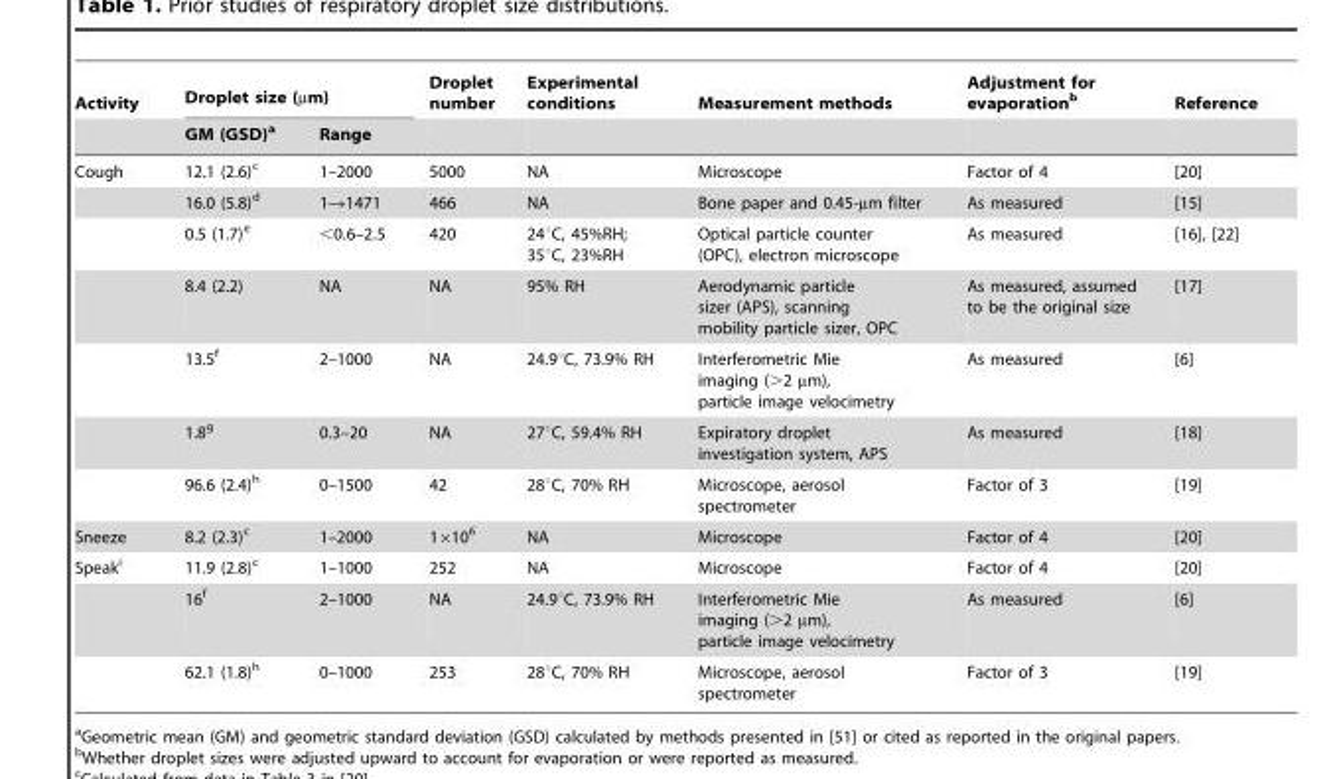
<table><thead><tr><td rowspan="2">Activity</td><td colspan="2">Droplet size (µm)</td><td rowspan="2">Droplet number</td><td rowspan="2">Experimental conditions</td><td rowspan="2">Measurement methods</td><td rowspan="2">Adjustment for evaporation<sup>b</sup></td><td rowspan="2">Reference</td></tr><tr><td>GM (GSD)<sup>a</sup></td><td>Range</td></tr></thead><tbody><tr><td rowspan="7">Cough</td><td>12.1 (2.6)<sup>c</sup></td><td>1–2000</td><td>5000</td><td>NA</td><td>Microscope</td><td>Factor of 4</td><td>[20]</td></tr><tr><td>16.0 (5.8)<sup>d</sup></td><td>1→1471</td><td>466</td><td>NA</td><td>Bone paper and 0.45-µm filter</td><td>As measured</td><td>[15]</td></tr><tr><td>0.5 (1.7)<sup>e</sup></td><td>&lt;0.6–2.5</td><td>420</td><td>24°C, 45%RH; 35°C, 23%RH</td><td>Optical particle counter (OPC), electron microscope</td><td>As measured</td><td>[16], [22]</td></tr><tr><td>8.4 (2.2)</td><td>NA</td><td>NA</td><td>95% RH</td><td>Aerodynamic particle sizer (APS), scanning mobility particle sizer, OPC</td><td>As measured, assumed to be the original size</td><td>[17]</td></tr><tr><td>13.5<sup>f</sup></td><td>2–1000</td><td>NA</td><td>24.9°C, 73.9% RH</td><td>Interferometric Mie imaging (&gt;2 µm), particle image velocimetry</td><td>As measured</td><td>[6]</td></tr><tr><td>1.8<sup>g</sup></td><td>0.3–20</td><td>NA</td><td>27°C, 59.4% RH</td><td>Expiratory droplet investigation system, APS</td><td>As measured</td><td>[18]</td></tr><tr><td>96.6 (2.4)<sup>h</sup></td><td>0–1500</td><td>42</td><td>28°C, 70% RH</td><td>Microscope, aerosol spectrometer</td><td>Factor of 3</td><td>[19]</td></tr><tr><td>Sneeze</td><td>8.2 (2.3)<sup>c</sup></td><td>1–2000</td><td>1×10<sup>6</sup></td><td>NA</td><td>Microscope</td><td>Factor of 4</td><td>[20]</td></tr><tr><td rowspan="3">Speak<sup>i</sup></td><td>11.9 (2.8)<sup>c</sup></td><td>1–1000</td><td>252</td><td>NA</td><td>Microscope</td><td>Factor of 4</td><td>[20]</td></tr><tr><td>16<sup>f</sup></td><td>2–1000</td><td>NA</td><td>24.9°C, 73.9% RH</td><td>Interferometric Mie imaging (&gt;2 µm), particle image velocimetry</td><td>As measured</td><td>[6]</td></tr><tr><td>62.1 (1.8)<sup>h</sup></td><td>0–1000</td><td>253</td><td>28°C, 70% RH</td><td>Microscope, aerosol spectrometer</td><td>Factor of 3</td><td>[19]</td></tr></tbody></table>